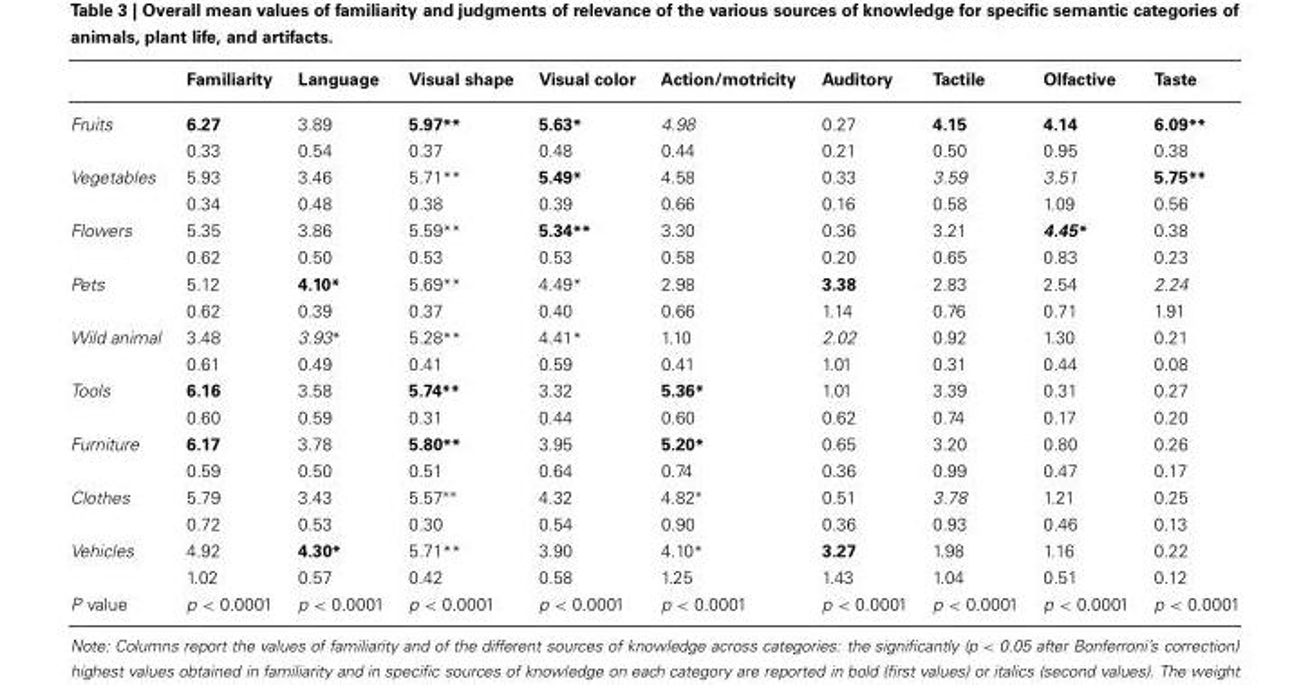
<table><thead><tr><td></td><td>Familiarity</td><td>Language</td><td>Visual shape</td><td>Visual color</td><td>Action/motricity</td><td>Auditory</td><td>Tactile</td><td>Olfactive</td><td>Taste</td></tr></thead><tbody><tr><td rowspan="2">Fruits</td><td>6.27</td><td>3.89</td><td>5.97**</td><td>5.63*</td><td>4.98</td><td>0.27</td><td>4.15</td><td>4.14</td><td>6.09**</td></tr><tr><td>0.33</td><td>0.54</td><td>0.37</td><td>0.48</td><td>0.44</td><td>0.21</td><td>0.50</td><td>0.95</td><td>0.38</td></tr><tr><td rowspan="2">Vegetables</td><td>5.93</td><td>3.46</td><td>5.71**</td><td>5.49*</td><td>4.58</td><td>0.33</td><td>3.59</td><td>3.51</td><td>5.75**</td></tr><tr><td>0.34</td><td>0.48</td><td>0.38</td><td>0.39</td><td>0.66</td><td>0.16</td><td>0.58</td><td>1.09</td><td>0.56</td></tr><tr><td rowspan="2">Flowers</td><td>5.35</td><td>3.86</td><td>5.59**</td><td>5.34**</td><td>3.30</td><td>0.36</td><td>3.21</td><td>4.45*</td><td>0.38</td></tr><tr><td>0.62</td><td>0.50</td><td>0.53</td><td>0.53</td><td>0.58</td><td>0.20</td><td>0.65</td><td>0.83</td><td>0.23</td></tr><tr><td rowspan="2">Pets</td><td>5.12</td><td>4.10*</td><td>5.69**</td><td>4.49*</td><td>2.98</td><td>3.38</td><td>2.83</td><td>2.54</td><td>2.24</td></tr><tr><td>0.62</td><td>0.39</td><td>0.37</td><td>0.40</td><td>0.66</td><td>1.14</td><td>0.76</td><td>0.71</td><td>1.91</td></tr><tr><td rowspan="2">Wild animal</td><td>3.48</td><td>3.93*</td><td>5.28**</td><td>4.41*</td><td>1.10</td><td>2.02</td><td>0.92</td><td>1.30</td><td>0.21</td></tr><tr><td>0.61</td><td>0.49</td><td>0.41</td><td>0.59</td><td>0.41</td><td>1.01</td><td>0.31</td><td>0.44</td><td>0.08</td></tr><tr><td rowspan="2">Tools</td><td>6.16</td><td>3.58</td><td>5.74**</td><td>3.32</td><td>5.36*</td><td>1.01</td><td>3.39</td><td>0.31</td><td>0.27</td></tr><tr><td>0.60</td><td>0.59</td><td>0.31</td><td>0.44</td><td>0.60</td><td>0.62</td><td>0.74</td><td>0.17</td><td>0.20</td></tr><tr><td rowspan="2">Furniture</td><td>6.17</td><td>3.78</td><td>5.80**</td><td>3.95</td><td>5.20*</td><td>0.65</td><td>3.20</td><td>0.80</td><td>0.26</td></tr><tr><td>0.59</td><td>0.50</td><td>0.51</td><td>0.64</td><td>0.74</td><td>0.36</td><td>0.99</td><td>0.47</td><td>0.17</td></tr><tr><td rowspan="2">Clothes</td><td>5.79</td><td>3.43</td><td>5.57∗∗</td><td>4.32</td><td>4.82∗</td><td>0.51</td><td>3.78</td><td>1.21</td><td>0.25</td></tr><tr><td>0.72</td><td>0.53</td><td>0.30</td><td>0.54</td><td>0.90</td><td>0.36</td><td>0.93</td><td>0.46</td><td>0.13</td></tr><tr><td rowspan="2">Vehicles</td><td>4.92</td><td>4.30*</td><td>5.71**</td><td>3.90</td><td>4.10*</td><td>3.27</td><td>1.98</td><td>1.16</td><td>0.22</td></tr><tr><td>1.02</td><td>0.57</td><td>0.42</td><td>0.58</td><td>1.25</td><td>1.43</td><td>1.04</td><td>0.51</td><td>0.12</td></tr><tr><td>P value</td><td>p &lt; 0.0001</td><td>p &lt; 0.0001</td><td>p &lt; 0.0001</td><td>p &lt; 0.0001</td><td>p &lt; 0.0001</td><td>p &lt; 0.0001</td><td>p &lt; 0.0001</td><td>p &lt; 0.0001</td><td>p &lt; 0.0001</td></tr></tbody></table>